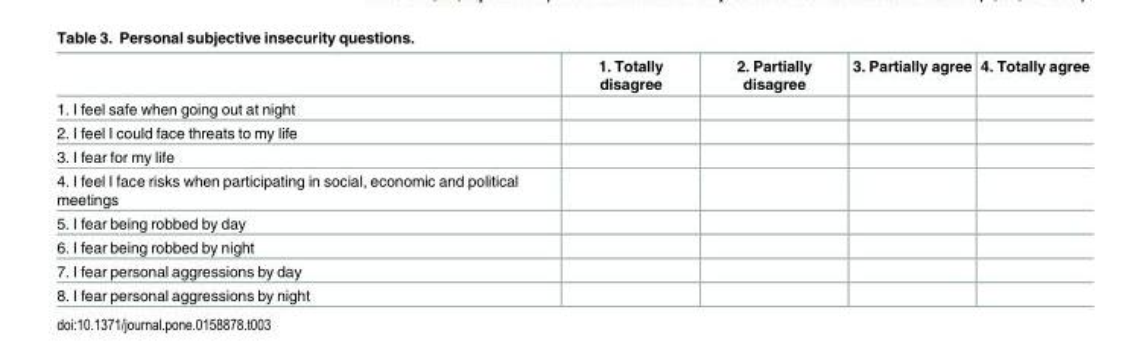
<table><thead><tr><td></td><td>1. Totally disagree</td><td>2. Partially disagree</td><td>3. Partially agree</td><td>4. Totally agree</td></tr></thead><tbody><tr><td colspan="5">1. I feel safe when going out at night</td></tr><tr><td colspan="5">2. I feel I could face threats to my life</td></tr><tr><td colspan="5">3. I fear for my life</td></tr><tr><td colspan="5">4. I feel I face risks when participating in social, economic and political meetings</td></tr><tr><td colspan="5">5. I fear being robbed by day</td></tr><tr><td colspan="5">6. I fear being robbed by night</td></tr><tr><td colspan="5">7. I fear personal aggressions by day</td></tr><tr><td>8. I fear personal aggressions by night</td><td></td><td></td><td></td><td></td></tr></tbody></table>